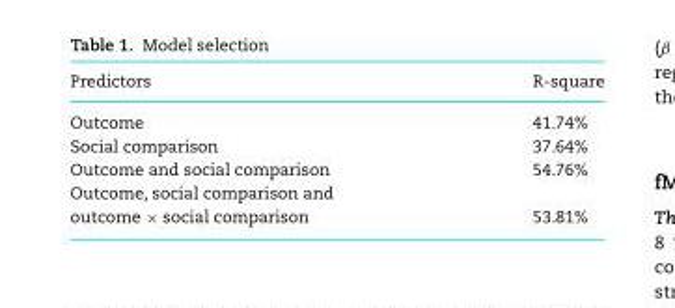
<table><thead><tr><td>Predictors</td><td>R-square</td></tr></thead><tbody><tr><td>Outcome</td><td>41.74%</td></tr><tr><td>Social comparison</td><td>37.64%</td></tr><tr><td>Outcome and social comparison</td><td>54.76%</td></tr><tr><td colspan="2">Outcome, social comparison and</td></tr><tr><td>outcome × social comparison</td><td>53.81%</td></tr></tbody></table>